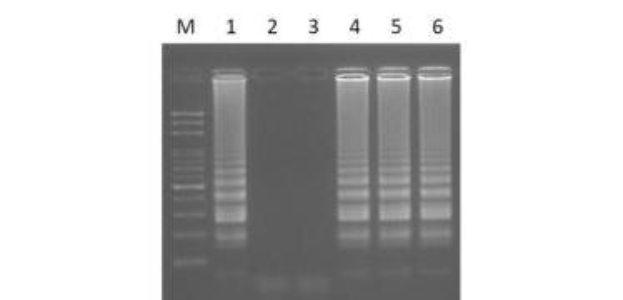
<table><thead><tr><td>Papaya Sample No.</td><td>Varieties Name</td><td>Sex Type</td></tr></thead><tbody><tr><td>1</td><td>Line Ph13047-1</td><td>hermaphrodite</td></tr><tr><td>2</td><td>Inbred line Y5043</td><td>Females</td></tr><tr><td>3</td><td>Inbred line Y5043</td><td>Females</td></tr><tr><td>4</td><td>Inbred line Y5043</td><td>Males</td></tr><tr><td>5</td><td>Line Ph13047-2</td><td>hermaphrodite</td></tr><tr><td>6</td><td>Inbred line Y5043</td><td>Males</td></tr></tbody></table>